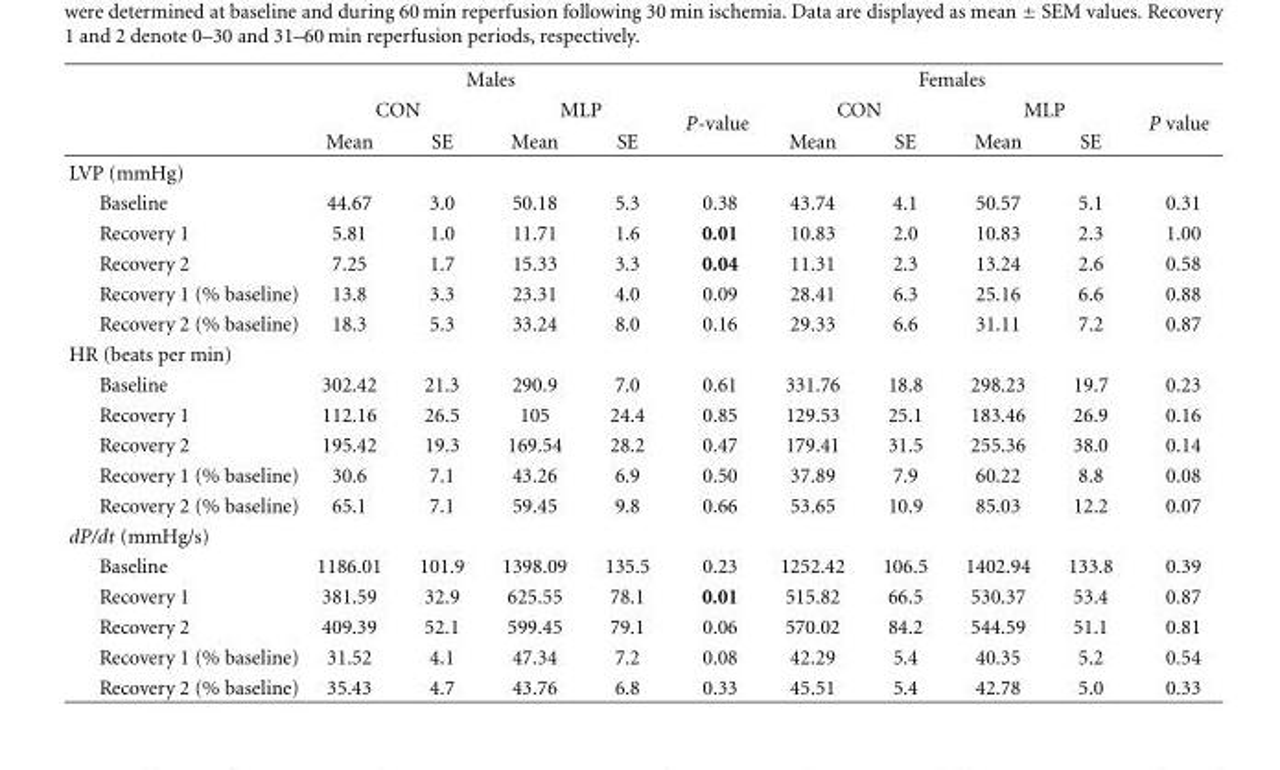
<table><thead><tr><td rowspan="3"></td><td colspan="4">Males</td><td rowspan="3">P-value</td><td colspan="4">Females</td><td rowspan="3">P value</td></tr><tr><td colspan="2">CON</td><td colspan="2">MLP</td><td colspan="2">CON</td><td colspan="2">MLP</td></tr><tr><td>Mean</td><td>SE</td><td>Mean</td><td>SE</td><td>Mean</td><td>SE</td><td>Mean</td><td>SE</td></tr></thead><tbody><tr><td colspan="11">LVP (mmHg)</td></tr><tr><td>Baseline</td><td>44.67</td><td>3.0</td><td>50.18</td><td>5.3</td><td>0.38</td><td>43.74</td><td>4.1</td><td>50.57</td><td>5.1</td><td>0.31</td></tr><tr><td>Recovery 1</td><td>5.81</td><td>1.0</td><td>11.71</td><td>1.6</td><td>0.01</td><td>10.83</td><td>2.0</td><td>10.83</td><td>2.3</td><td>1.00</td></tr><tr><td>Recovery 2</td><td>7.25</td><td>1.7</td><td>15.33</td><td>3.3</td><td>0.04</td><td>11.31</td><td>2.3</td><td>13.24</td><td>2.6</td><td>0.58</td></tr><tr><td>Recovery 1 (% baseline)</td><td>13.8</td><td>3.3</td><td>23.31</td><td>4.0</td><td>0.09</td><td>28.41</td><td>6.3</td><td>25.16</td><td>6.6</td><td>0.88</td></tr><tr><td>Recovery 2 (% baseline)</td><td>18.3</td><td>5.3</td><td>33.24</td><td>8.0</td><td>0.16</td><td>29.33</td><td>6.6</td><td>31.11</td><td>7.2</td><td>0.87</td></tr><tr><td colspan="11">HR (beats per min)</td></tr><tr><td>Baseline</td><td>302.42</td><td>21.3</td><td>290.9</td><td>7.0</td><td>0.61</td><td>331.76</td><td>18.8</td><td>298.23</td><td>19.7</td><td>0.23</td></tr><tr><td>Recovery 1</td><td>112.16</td><td>26.5</td><td>105</td><td>24.4</td><td>0.85</td><td>129.53</td><td>25.1</td><td>183.46</td><td>26.9</td><td>0.16</td></tr><tr><td>Recovery 2</td><td>195.42</td><td>19.3</td><td>169.54</td><td>28.2</td><td>0.47</td><td>179.41</td><td>31.5</td><td>255.36</td><td>38.0</td><td>0.14</td></tr><tr><td>Recovery 1 (% baseline)</td><td>30.6</td><td>7.1</td><td>43.26</td><td>6.9</td><td>0.50</td><td>37.89</td><td>7.9</td><td>60.22</td><td>8.8</td><td>0.08</td></tr><tr><td>Recovery 2 (% baseline)</td><td>65.1</td><td>7.1</td><td>59.45</td><td>9.8</td><td>0.66</td><td>53.65</td><td>10.9</td><td>85.03</td><td>12.2</td><td>0.07</td></tr><tr><td colspan="11">dP/dt (mmHg/s)</td></tr><tr><td>Baseline</td><td>1186.01</td><td>101.9</td><td>1398.09</td><td>135.5</td><td>0.23</td><td>1252.42</td><td>106.5</td><td>1402.94</td><td>133.8</td><td>0.39</td></tr><tr><td>Recovery 1</td><td>381.59</td><td>32.9</td><td>625.55</td><td>78.1</td><td>0.01</td><td>515.82</td><td>66.5</td><td>530.37</td><td>53.4</td><td>0.87</td></tr><tr><td>Recovery 2</td><td>409.39</td><td>52.1</td><td>599.45</td><td>79.1</td><td>0.06</td><td>570.02</td><td>84.2</td><td>544.59</td><td>51.1</td><td>0.81</td></tr><tr><td>Recovery 1 (% baseline)</td><td>31.52</td><td>4.1</td><td>47.34</td><td>7.2</td><td>0.08</td><td>42.29</td><td>5.4</td><td>40.35</td><td>5.2</td><td>0.54</td></tr><tr><td>Recovery 2 (% baseline)</td><td>35.43</td><td>4.7</td><td>43.76</td><td>6.8</td><td>0.33</td><td>45.51</td><td>5.4</td><td>42.78</td><td>5.0</td><td>0.33</td></tr></tbody></table>